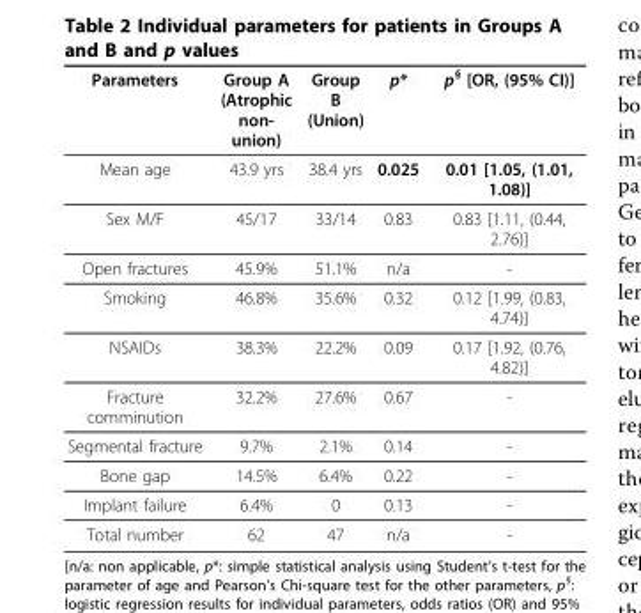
<table><thead><tr><td>Parameters</td><td>Group A (Atrophic non- union)</td><td>Group B (Union)</td><td>p*</td><td>p<sup>§</sup> [OR, (95% CI)]</td></tr></thead><tbody><tr><td>Mean age</td><td>43.9 yrs</td><td>38.4 yrs</td><td>0.025</td><td>0.01 [1.05, (1.01, 1.08)]</td></tr><tr><td>Sex M/F</td><td>45/17</td><td>33/14</td><td>0.83</td><td>0.83 [1.11, (0.44, 2.76)]</td></tr><tr><td>Open fractures</td><td>45.9%</td><td>51.1%</td><td>n/a</td><td>-</td></tr><tr><td>Smoking</td><td>46.8%</td><td>35.6%</td><td>0.32</td><td>0.12 [1.99, (0.83, 4.74)]</td></tr><tr><td>NSAIDs</td><td>38.3%</td><td>22.2%</td><td>0.09</td><td>0.17 [1.92, (0.76, 4.82)]</td></tr><tr><td>Fracture comminution</td><td>32.2%</td><td>27.6%</td><td>0.67</td><td>-</td></tr><tr><td>Segmental fracture</td><td>9.7%</td><td>2.1%</td><td>0.14</td><td>-</td></tr><tr><td>Bone gap</td><td>14.5%</td><td>6.4%</td><td>0.22</td><td>-</td></tr><tr><td>Implant failure</td><td>6.4%</td><td>0</td><td>0.13</td><td>-</td></tr><tr><td>Total number</td><td>62</td><td>47</td><td>n/a</td><td>-</td></tr></tbody></table>